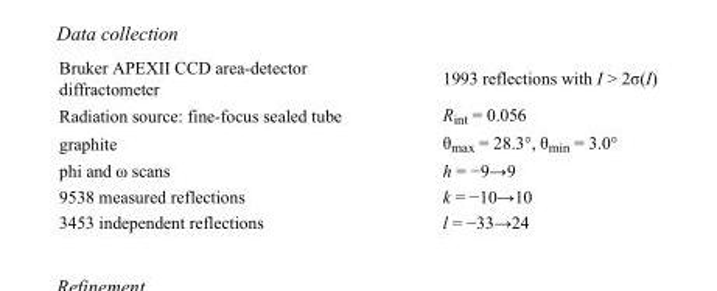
<table><tbody><tr><td>Bruker APEXII CCD area-detector diffractometer</td><td>1993 reflections with I &gt; 2σ(I)</td></tr><tr><td>Radiation source: fine-focus sealed tube</td><td>R<sub>int</sub> = 0.056</td></tr><tr><td>graphite</td><td>θ<sub>max</sub> = 28.3°, θ<sub>min</sub> = 3.0°</td></tr><tr><td>phi and ω scans</td><td>h = −9→9</td></tr><tr><td>9538 measured reflections</td><td>k = −10→10</td></tr><tr><td>3453 independent reflections</td><td>l = −33→24</td></tr></tbody></table>